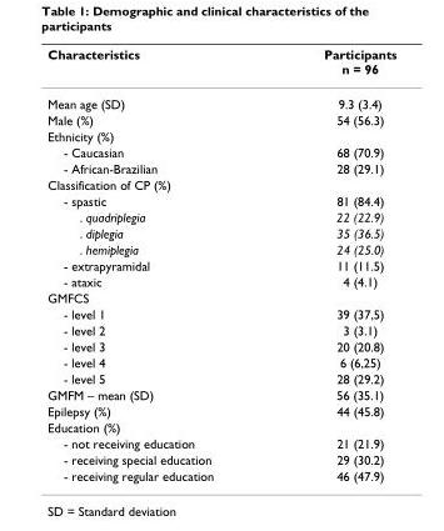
<table><thead><tr><td>Characteristics</td><td>Participants n = 96</td></tr></thead><tbody><tr><td>Mean age (SD)</td><td>9.3 (3.4)</td></tr><tr><td>Male (%)</td><td>54 (56.3)</td></tr><tr><td colspan="2">Ethnicity (%)</td></tr><tr><td>- Caucasian</td><td>68 (70.9)</td></tr><tr><td>- African-Brazilian</td><td>28 (29.1)</td></tr><tr><td colspan="2">Classification of CP (%)</td></tr><tr><td>- spastic</td><td>81 (84.4)</td></tr><tr><td>. quadriplegia</td><td>22 (22.9)</td></tr><tr><td>. diplegia</td><td>35 (36.5)</td></tr><tr><td>. hemiplegia</td><td>24 (25.0)</td></tr><tr><td>- extrapyramidal</td><td>11 (11.5)</td></tr><tr><td>- ataxic</td><td>4 (4.1)</td></tr><tr><td colspan="2">GMFCS</td></tr><tr><td>- level 1</td><td>39 (37,5)</td></tr><tr><td>- level 2</td><td>3 (3.1)</td></tr><tr><td>- level 3</td><td>20 (20.8)</td></tr><tr><td>- level 4</td><td>6 (6,25)</td></tr><tr><td>- level 5</td><td>28 (29.2)</td></tr><tr><td>GMFM – mean (SD)</td><td>56 (35.1)</td></tr><tr><td>Epilepsy (%)</td><td>44 (45.8)</td></tr><tr><td colspan="2">Education (%)</td></tr><tr><td>- not receiving education</td><td>21 (21.9)</td></tr><tr><td>- receiving special education</td><td>29 (30.2)</td></tr><tr><td>- receiving regular education</td><td>46 (47.9)</td></tr></tbody></table>